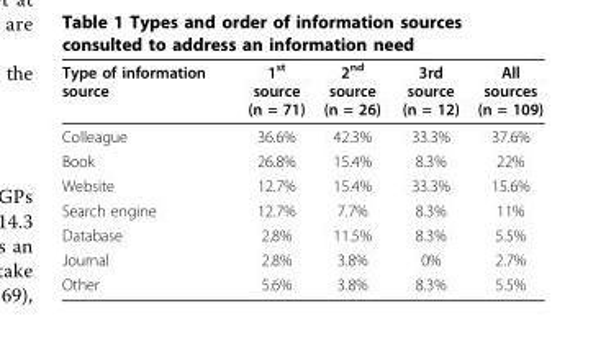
<table><thead><tr><td>Type of information source</td><td>1<sup>st</sup> source (n = 71)</td><td>2<sup>nd</sup> source (n = 26)</td><td>3rd source (n = 12)</td><td>All sources (n = 109)</td></tr></thead><tbody><tr><td>Colleague</td><td>36.6%</td><td>42.3%</td><td>33.3%</td><td>37.6%</td></tr><tr><td>Book</td><td>26.8%</td><td>15.4%</td><td>8.3%</td><td>22%</td></tr><tr><td>Website</td><td>12.7%</td><td>15.4%</td><td>33.3%</td><td>15.6%</td></tr><tr><td>Search engine</td><td>12.7%</td><td>7.7%</td><td>8.3%</td><td>11%</td></tr><tr><td>Database</td><td>2.8%</td><td>11.5%</td><td>8.3%</td><td>5.5%</td></tr><tr><td>Journal</td><td>2.8%</td><td>3.8%</td><td>0%</td><td>2.7%</td></tr><tr><td>Other</td><td>5.6%</td><td>3.8%</td><td>8.3%</td><td>5.5%</td></tr></tbody></table>